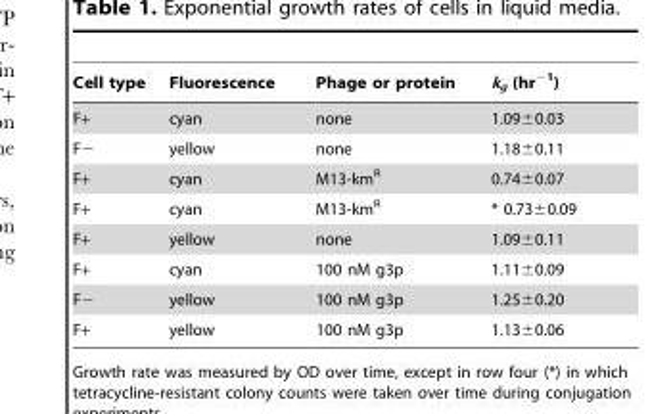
<table><thead><tr><td>Cell type</td><td>Fluorescence</td><td>Phage or protein</td><td>k<sub>g</sub> (hr<sup>−1</sup>)</td></tr></thead><tbody><tr><td>F+</td><td>cyan</td><td>none</td><td>1.09±0.03</td></tr><tr><td>F−</td><td>yellow</td><td>none</td><td>1.18±0.11</td></tr><tr><td>F+</td><td>cyan</td><td>M13-km<sup>R</sup></td><td>0.74±0.07</td></tr><tr><td>F+</td><td>cyan</td><td>M13-km<sup>R</sup></td><td>* 0.73±0.09</td></tr><tr><td>F+</td><td>yellow</td><td>none</td><td>1.09±0.11</td></tr><tr><td>F+</td><td>cyan</td><td>100 nM g3p</td><td>1.11±0.09</td></tr><tr><td>F−</td><td>yellow</td><td>100 nM g3p</td><td>1.25±0.20</td></tr><tr><td>F+</td><td>yellow</td><td>100 nM g3p</td><td>1.13±0.06</td></tr></tbody></table>